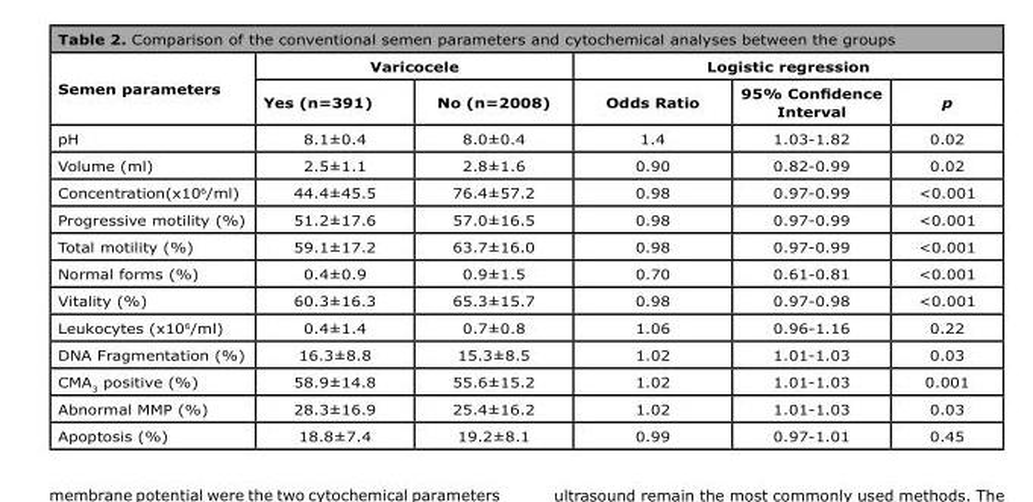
<table><thead><tr><td rowspan="2">Semen parameters</td><td colspan="2">Varicocele</td><td colspan="3">Logistic regression</td></tr><tr><td>Yes (n=391)</td><td>No (n=2008)</td><td>Odds Ratio</td><td>95% Confidence Interval</td><td>p</td></tr></thead><tbody><tr><td>pH</td><td>8.1±0.4</td><td>8.0±0.4</td><td>1.4</td><td>1.03-1.82</td><td>0.02</td></tr><tr><td>Volume (ml)</td><td>2.5±1.1</td><td>2.8±1.6</td><td>0.90</td><td>0.82-0.99</td><td>0.02</td></tr><tr><td>Concentration(x10<sup>6</sup>/ml)</td><td>44.4±45.5</td><td>76.4±57.2</td><td>0.98</td><td>0.97-0.99</td><td>&lt;0.001</td></tr><tr><td>Progressive motility (%)</td><td>51.2±17.6</td><td>57.0±16.5</td><td>0.98</td><td>0.97-0.99</td><td>&lt;0.001</td></tr><tr><td>Total motility (%)</td><td>59.1±17.2</td><td>63.7±16.0</td><td>0.98</td><td>0.97-0.99</td><td>&lt;0.001</td></tr><tr><td>Normal forms (%)</td><td>0.4±0.9</td><td>0.9±1.5</td><td>0.70</td><td>0.61-0.81</td><td>&lt;0.001</td></tr><tr><td>Vitality (%)</td><td>60.3±16.3</td><td>65.3±15.7</td><td>0.98</td><td>0.97-0.98</td><td>&lt;0.001</td></tr><tr><td>Leukocytes (x10<sup>6</sup>/ml)</td><td>0.4±1.4</td><td>0.7±0.8</td><td>1.06</td><td>0.96-1.16</td><td>0.22</td></tr><tr><td>DNA Fragmentation (%)</td><td>16.3±8.8</td><td>15.3±8.5</td><td>1.02</td><td>1.01-1.03</td><td>0.03</td></tr><tr><td>CMA3 positive (%)</td><td>58.9±14.8</td><td>55.6±15.2</td><td>1.02</td><td>1.01-1.03</td><td>0.001</td></tr><tr><td>Abnormal MMP (%)</td><td>28.3±16.9</td><td>25.4±16.2</td><td>1.02</td><td>1.01-1.03</td><td>0.03</td></tr><tr><td>Apoptosis (%)</td><td>18.8±7.4</td><td>19.2±8.1</td><td>0.99</td><td>0.97-1.01</td><td>0.45</td></tr></tbody></table>